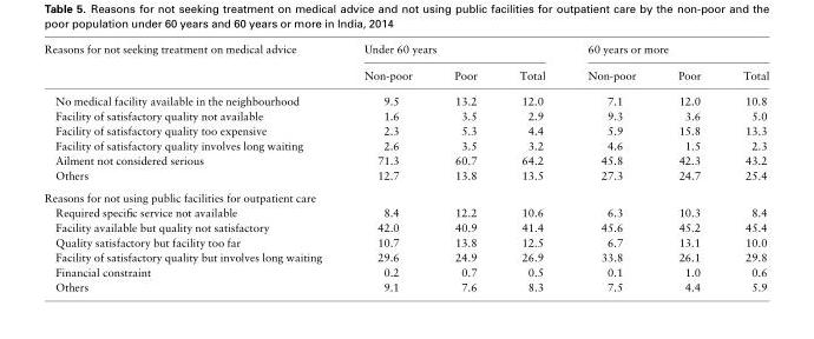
<table><thead><tr><td rowspan="2">Reasons for not seeking treatment on medical advice</td><td colspan="3">Under 60 years</td><td colspan="3">60 years or more</td></tr><tr><td>Non-poor</td><td>Poor</td><td>Total</td><td>Non-poor</td><td>Poor</td><td>Total</td></tr></thead><tbody><tr><td>No medical facility available in the neighbourhood</td><td>9.5</td><td>13.2</td><td>12.0</td><td>7.1</td><td>12.0</td><td>10.8</td></tr><tr><td>Facility of satisfactory quality not available</td><td>1.6</td><td>3.5</td><td>2.9</td><td>9.3</td><td>3.6</td><td>5.0</td></tr><tr><td>Facility of satisfactory quality too expensive</td><td>2.3</td><td>5.3</td><td>4.4</td><td>5.9</td><td>15.8</td><td>13.3</td></tr><tr><td>Facility of satisfactory quality involves long waiting</td><td>2.6</td><td>3.5</td><td>3.2</td><td>4.6</td><td>1.5</td><td>2.3</td></tr><tr><td>Ailment not considered serious</td><td>71.3</td><td>60.7</td><td>64.2</td><td>45.8</td><td>42.3</td><td>43.2</td></tr><tr><td>Others</td><td>12.7</td><td>13.8</td><td>13.5</td><td>27.3</td><td>24.7</td><td>25.4</td></tr><tr><td colspan="7">Reasons for not using public facilities for outpatient care</td></tr><tr><td>Required specific service not available</td><td>8.4</td><td>12.2</td><td>10.6</td><td>6.3</td><td>10.3</td><td>8.4</td></tr><tr><td>Facility available but quality not satisfactory</td><td>42.0</td><td>40.9</td><td>41.4</td><td>45.6</td><td>45.2</td><td>45.4</td></tr><tr><td>Quality satisfactory but facility too far</td><td>10.7</td><td>13.8</td><td>12.5</td><td>6.7</td><td>13.1</td><td>10.0</td></tr><tr><td>Facility of satisfactory quality but involves long waiting</td><td>29.6</td><td>24.9</td><td>26.9</td><td>33.8</td><td>26.1</td><td>29.8</td></tr><tr><td>Financial constraint</td><td>0.2</td><td>0.7</td><td>0.5</td><td>0.1</td><td>1.0</td><td>0.6</td></tr><tr><td>Others</td><td>9.1</td><td>7.6</td><td>8.3</td><td>7.5</td><td>4.4</td><td>5.9</td></tr></tbody></table>